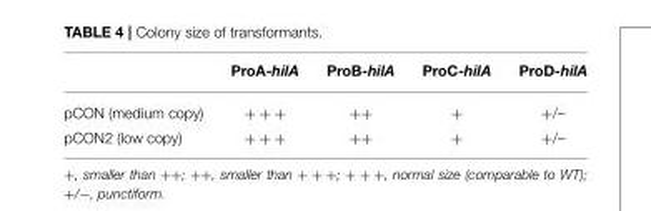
<table><thead><tr><td></td><td>ProA-hilA</td><td>ProB-hilA</td><td>ProC-hilA</td><td>ProD-hilA</td></tr></thead><tbody><tr><td>pCON (medium copy)</td><td>+ + +</td><td>++</td><td>+</td><td>+/–</td></tr><tr><td>pCON2 (low copy)</td><td>+ + +</td><td>++</td><td>+</td><td>+/–</td></tr></tbody></table>